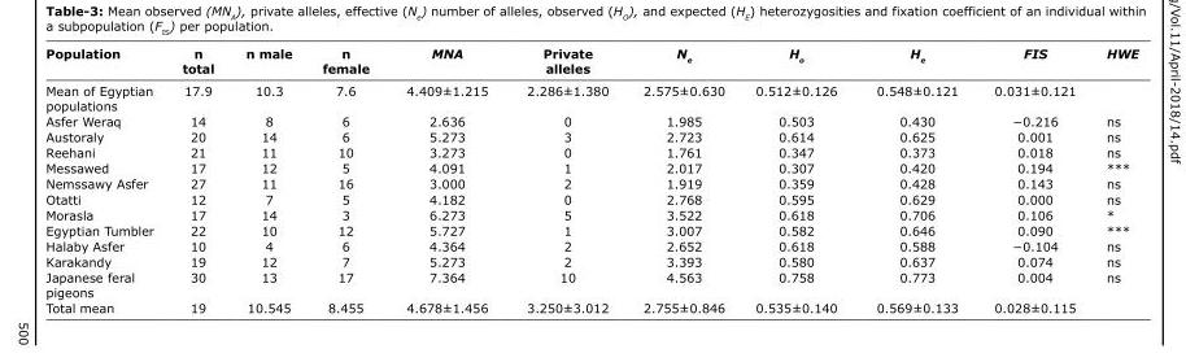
<table><thead><tr><td>Population</td><td>n total</td><td>n male</td><td>n female</td><td>MNA</td><td>Private alleles</td><td>N<sub>e</sub></td><td>H<sub>o</sub></td><td>H<sub>e</sub></td><td>FIS</td><td>HWE</td></tr></thead><tbody><tr><td>Mean of Egyptian populations</td><td>17.9</td><td>10.3</td><td>7.6</td><td>4.409±1.215</td><td>2.286±1.380</td><td>2.575±0.630</td><td>0.512±0.126</td><td>0.548±0.121</td><td>0.031±0.121</td><td></td></tr><tr><td>Asfer Weraq</td><td>14</td><td>8</td><td>6</td><td>2.636</td><td>0</td><td>1.985</td><td>0.503</td><td>0.430</td><td>−0.216</td><td>ns</td></tr><tr><td>Austoraly</td><td>20</td><td>14</td><td>6</td><td>5.273</td><td>3</td><td>2.723</td><td>0.614</td><td>0.625</td><td>0.001</td><td>ns</td></tr><tr><td>Reehani</td><td>21</td><td>11</td><td>10</td><td>3.273</td><td>0</td><td>1.761</td><td>0.347</td><td>0.373</td><td>0.018</td><td>ns</td></tr><tr><td>Messawed</td><td>17</td><td>12</td><td>5</td><td>4.091</td><td>1</td><td>2.017</td><td>0.307</td><td>0.420</td><td>0.194</td><td>***</td></tr><tr><td>Nemssawy Asfer</td><td>27</td><td>11</td><td>16</td><td>3.000</td><td>2</td><td>1.919</td><td>0.359</td><td>0.428</td><td>0.143</td><td>ns</td></tr><tr><td>Otatti</td><td>12</td><td>7</td><td>5</td><td>4.182</td><td>0</td><td>2.768</td><td>0.595</td><td>0.629</td><td>0.000</td><td>ns</td></tr><tr><td>Morasla</td><td>17</td><td>14</td><td>3</td><td>6.273</td><td>5</td><td>3.522</td><td>0.618</td><td>0.706</td><td>0.106</td><td>*</td></tr><tr><td>Egyptian Tumbler</td><td>22</td><td>10</td><td>12</td><td>5.727</td><td>1</td><td>3.007</td><td>0.582</td><td>0.646</td><td>0.090</td><td>***</td></tr><tr><td>Halaby Asfer</td><td>10</td><td>4</td><td>6</td><td>4.364</td><td>2</td><td>2.652</td><td>0.618</td><td>0.588</td><td>−0.104</td><td>ns</td></tr><tr><td>Karakandy</td><td>19</td><td>12</td><td>7</td><td>5.273</td><td>2</td><td>3.393</td><td>0.580</td><td>0.637</td><td>0.074</td><td>ns</td></tr><tr><td>Japanese feral pigeons</td><td>30</td><td>13</td><td>17</td><td>7.364</td><td>10</td><td>4.563</td><td>0.758</td><td>0.773</td><td>0.004</td><td>ns</td></tr><tr><td>Total mean</td><td>19</td><td>10.545</td><td>8.455</td><td>4.678±1.456</td><td>3.250±3.012</td><td>2.755±0.846</td><td>0.535±0.140</td><td>0.569±0.133</td><td>0.028±0.115</td><td></td></tr></tbody></table>